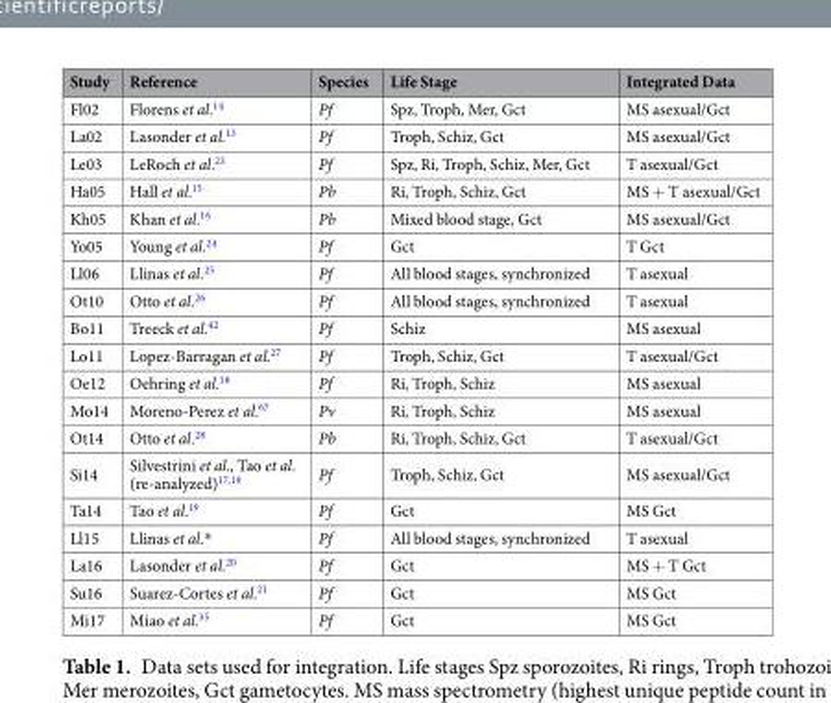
<table><thead><tr><td>Study</td><td>Reference</td><td>Species</td><td>Life Stage</td><td>Integrated Data</td></tr></thead><tbody><tr><td>Fl02</td><td>Florens et al.<sup>14</sup></td><td>Pf</td><td>Spz, Troph, Mer, Gct</td><td>MS asexual/Gct</td></tr><tr><td>La02</td><td>Lasonder et al.<sup>13</sup></td><td>Pf</td><td>Troph, Schiz, Gct</td><td>MS asexual/Gct</td></tr><tr><td>Le03</td><td>LeRoch et al.<sup>23</sup></td><td>Pf</td><td>Spz, Ri, Troph, Schiz, Mer, Gct</td><td>T asexual/Gct</td></tr><tr><td>Ha05</td><td>Hall et al.<sup>15</sup></td><td>Pb</td><td>Ri, Troph, Schiz, Gct</td><td>MS + T asexual/Gct</td></tr><tr><td>Kh05</td><td>Khan et al.<sup>16</sup></td><td>Pb</td><td>Mixed blood stage, Gct</td><td>MS asexual/Gct</td></tr><tr><td>Yo05</td><td>Young et al.<sup>24</sup></td><td>Pf</td><td>Gct</td><td>T Gct</td></tr><tr><td>Ll06</td><td>Llinas et al.<sup>25</sup></td><td>Pf</td><td>All blood stages, synchronized</td><td>T asexual</td></tr><tr><td>Ot10</td><td>Otto et al.<sup>26</sup></td><td>Pf</td><td>All blood stages, synchronized</td><td>T asexual</td></tr><tr><td>Bo11</td><td>Treeck et al.<sup>42</sup></td><td>Pf</td><td>Schiz</td><td>MS asexual</td></tr><tr><td>Lo11</td><td>Lopez-Barragan et al.<sup>27</sup></td><td>Pf</td><td>Troph, Schiz, Gct</td><td>T asexual/Gct</td></tr><tr><td>Oe12</td><td>Oehring et al.<sup>18</sup></td><td>Pf</td><td>Ri, Troph, Schiz</td><td>MS asexual</td></tr><tr><td>Mo14</td><td>Moreno-Perez et al.<sup>67</sup></td><td>Pv</td><td>Ri, Troph, Schiz</td><td>MS asexual</td></tr><tr><td>Ot14</td><td>Otto et al.<sup>28</sup></td><td>Pb</td><td>Ri, Troph, Schiz, Gct</td><td>T asexual/Gct</td></tr><tr><td>Si14</td><td>Silvestrini et al., Tao et al. (re-analyzed)<sup>17,19</sup></td><td>Pf</td><td>Troph, Schiz, Gct</td><td>MS asexual/Gct</td></tr><tr><td>Ta14</td><td>Tao et al.<sup>19</sup></td><td>Pf</td><td>Gct</td><td>MS Gct</td></tr><tr><td>Ll15</td><td>Llinas et al.*</td><td>Pf</td><td>All blood stages, synchronized</td><td>T asexual</td></tr><tr><td>La16</td><td>Lasonder et al.<sup>20</sup></td><td>Pf</td><td>Gct</td><td>MS + T Gct</td></tr><tr><td>Su16</td><td>Suarez-Cortes et al.<sup>21</sup></td><td>Pf</td><td>Gct</td><td>MS Gct</td></tr><tr><td>Mi17</td><td>Miao et al.<sup>35</sup></td><td>Pf</td><td>Gct</td><td>MS Gct</td></tr></tbody></table>